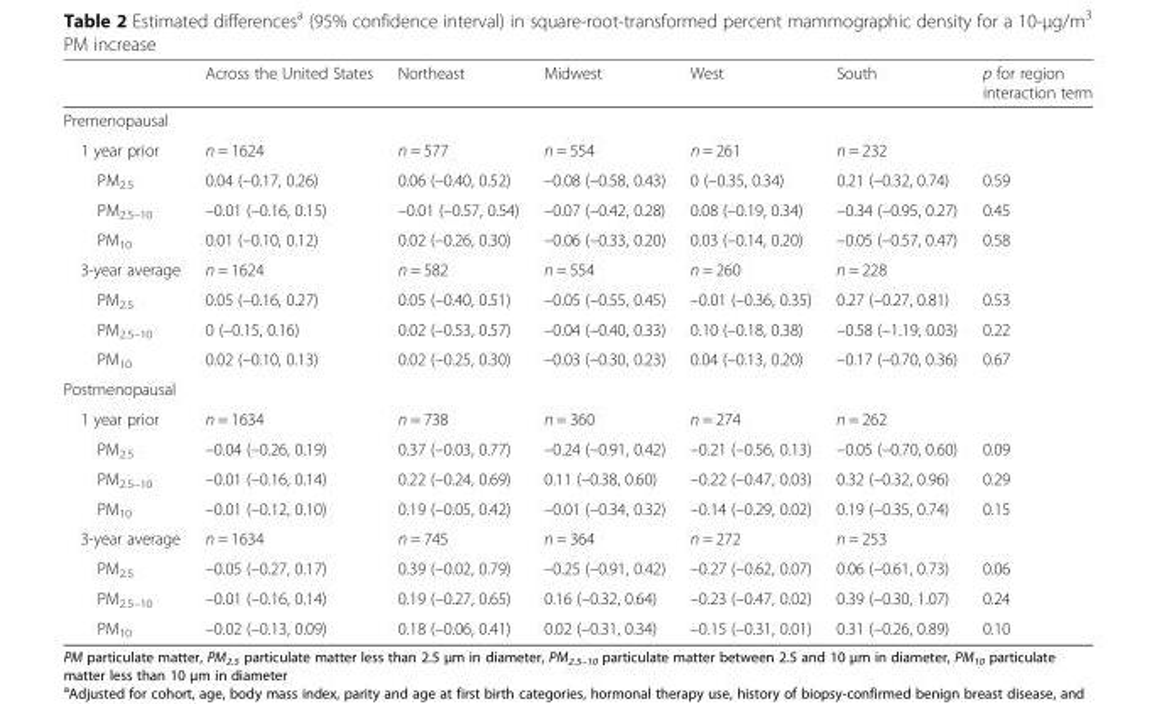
<table><thead><tr><td></td><td>Across the United States</td><td>Northeast</td><td>Midwest</td><td>West</td><td>South</td><td>p for region interaction term</td></tr></thead><tbody><tr><td colspan="7">Premenopausal</td></tr><tr><td>1 year prior</td><td>n = 1624</td><td>n = 577</td><td>n = 554</td><td>n = 261</td><td>n = 232</td><td></td></tr><tr><td>PM<sub>2.5</sub></td><td>0.04 (–0.17, 0.26)</td><td>0.06 (–0.40, 0.52)</td><td>–0.08 (–0.58, 0.43)</td><td>0 (–0.35, 0.34)</td><td>0.21 (–0.32, 0.74)</td><td>0.59</td></tr><tr><td>PM<sub>2.5–10</sub></td><td>–0.01 (–0.16, 0.15)</td><td>–0.01 (–0.57, 0.54)</td><td>–0.07 (–0.42, 0.28)</td><td>0.08 (–0.19, 0.34)</td><td>–0.34 (–0.95, 0.27)</td><td>0.45</td></tr><tr><td>PM<sub>10</sub></td><td>0.01 (–0.10, 0.12)</td><td>0.02 (–0.26, 0.30)</td><td>–0.06 (–0.33, 0.20)</td><td>0.03 (–0.14, 0.20)</td><td>–0.05 (–0.57, 0.47)</td><td>0.58</td></tr><tr><td>3-year average</td><td>n = 1624</td><td>n = 582</td><td>n = 554</td><td>n = 260</td><td>n = 228</td><td></td></tr><tr><td>PM<sub>2.5</sub></td><td>0.05 (–0.16, 0.27)</td><td>0.05 (–0.40, 0.51)</td><td>–0.05 (–0.55, 0.45)</td><td>–0.01 (–0.36, 0.35)</td><td>0.27 (–0.27, 0.81)</td><td>0.53</td></tr><tr><td>PM<sub>2.5–10</sub></td><td>0 (–0.15, 0.16)</td><td>0.02 (–0.53, 0.57)</td><td>–0.04 (–0.40, 0.33)</td><td>0.10 (–0.18, 0.38)</td><td>–0.58 (–1.19, 0.03)</td><td>0.22</td></tr><tr><td>PM<sub>10</sub></td><td>0.02 (–0.10, 0.13)</td><td>0.02 (–0.25, 0.30)</td><td>–0.03 (–0.30, 0.23)</td><td>0.04 (–0.13, 0.20)</td><td>–0.17 (–0.70, 0.36)</td><td>0.67</td></tr><tr><td colspan="7">Postmenopausal</td></tr><tr><td>1 year prior</td><td>n = 1634</td><td>n = 738</td><td>n = 360</td><td>n = 274</td><td>n = 262</td><td></td></tr><tr><td>PM<sub>2.5</sub></td><td>–0.04 (–0.26, 0.19)</td><td>0.37 (–0.03, 0.77)</td><td>–0.24 (–0.91, 0.42)</td><td>–0.21 (–0.56, 0.13)</td><td>–0.05 (–0.70, 0.60)</td><td>0.09</td></tr><tr><td>PM<sub>2.5–10</sub></td><td>–0.01 (–0.16, 0.14)</td><td>0.22 (–0.24, 0.69)</td><td>0.11 (–0.38, 0.60)</td><td>–0.22 (–0.47, 0.03)</td><td>0.32 (–0.32, 0.96)</td><td>0.29</td></tr><tr><td>PM<sub>10</sub></td><td>–0.01 (–0.12, 0.10)</td><td>0.19 (–0.05, 0.42)</td><td>–0.01 (–0.34, 0.32)</td><td>–0.14 (–0.29, 0.02)</td><td>0.19 (–0.35, 0.74)</td><td>0.15</td></tr><tr><td>3-year average</td><td>n = 1634</td><td>n = 745</td><td>n = 364</td><td>n = 272</td><td>n = 253</td><td></td></tr><tr><td>PM<sub>2.5</sub></td><td>–0.05 (–0.27, 0.17)</td><td>0.39 (–0.02, 0.79)</td><td>–0.25 (–0.91, 0.42)</td><td>–0.27 (–0.62, 0.07)</td><td>0.06 (–0.61, 0.73)</td><td>0.06</td></tr><tr><td>PM<sub>2.5–10</sub></td><td>–0.01 (–0.16, 0.14)</td><td>0.19 (–0.27, 0.65)</td><td>0.16 (–0.32, 0.64)</td><td>–0.23 (–0.47, 0.02)</td><td>0.39 (–0.30, 1.07)</td><td>0.24</td></tr><tr><td>PM<sub>10</sub></td><td>–0.02 (–0.13, 0.09)</td><td>0.18 (–0.06, 0.41)</td><td>0.02 (–0.31, 0.34)</td><td>–0.15 (–0.31, 0.01)</td><td>0.31 (–0.26, 0.89)</td><td>0.10</td></tr></tbody></table>